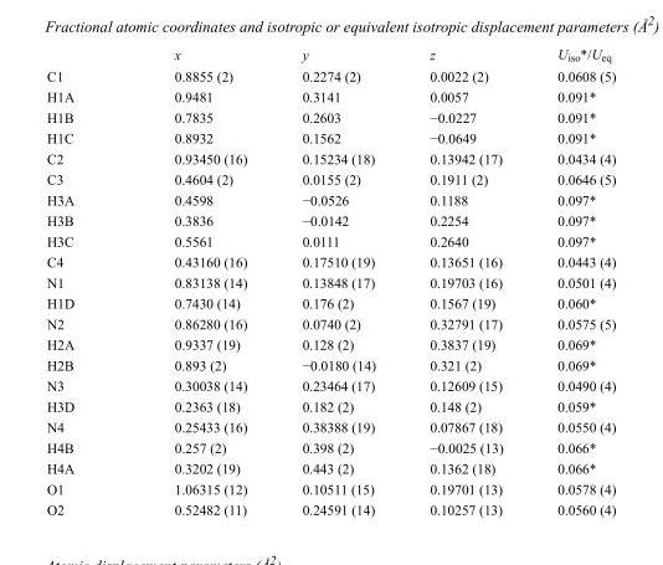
<table><thead><tr><td></td><td>x</td><td>y</td><td>z</td><td>U<sub>iso</sub>*/U<sub>eq</sub></td></tr></thead><tbody><tr><td>C1</td><td>0.8855 (2)</td><td>0.2274 (2)</td><td>0.0022 (2)</td><td>0.0608 (5)</td></tr><tr><td>H1A</td><td>0.9481</td><td>0.3141</td><td>0.0057</td><td>0.091*</td></tr><tr><td>H1B</td><td>0.7835</td><td>0.2603</td><td>−0.0227</td><td>0.091*</td></tr><tr><td>H1C</td><td>0.8932</td><td>0.1562</td><td>−0.0649</td><td>0.091*</td></tr><tr><td>C2</td><td>0.93450 (16)</td><td>0.15234 (18)</td><td>0.13942 (17)</td><td>0.0434 (4)</td></tr><tr><td>C3</td><td>0.4604 (2)</td><td>0.0155 (2)</td><td>0.1911 (2)</td><td>0.0646 (5)</td></tr><tr><td>H3A</td><td>0.4598</td><td>−0.0526</td><td>0.1188</td><td>0.097*</td></tr><tr><td>H3B</td><td>0.3836</td><td>−0.0142</td><td>0.2254</td><td>0.097*</td></tr><tr><td>H3C</td><td>0.5561</td><td>0.0111</td><td>0.2640</td><td>0.097*</td></tr><tr><td>C4</td><td>0.43160 (16)</td><td>0.17510 (19)</td><td>0.13651 (16)</td><td>0.0443 (4)</td></tr><tr><td>N1</td><td>0.83138 (14)</td><td>0.13848 (17)</td><td>0.19703 (16)</td><td>0.0501 (4)</td></tr><tr><td>H1D</td><td>0.7430 (14)</td><td>0.176 (2)</td><td>0.1567 (19)</td><td>0.060*</td></tr><tr><td>N2</td><td>0.86280 (16)</td><td>0.0740 (2)</td><td>0.32791 (17)</td><td>0.0575 (5)</td></tr><tr><td>H2A</td><td>0.9337 (19)</td><td>0.128 (2)</td><td>0.3837 (19)</td><td>0.069*</td></tr><tr><td>H2B</td><td>0.893 (2)</td><td>−0.0180 (14)</td><td>0.321 (2)</td><td>0.069*</td></tr><tr><td>N3</td><td>0.30038 (14)</td><td>0.23464 (17)</td><td>0.12609 (15)</td><td>0.0490 (4)</td></tr><tr><td>H3D</td><td>0.2363 (18)</td><td>0.182 (2)</td><td>0.148 (2)</td><td>0.059*</td></tr><tr><td>N4</td><td>0.25433 (16)</td><td>0.38388 (19)</td><td>0.07867 (18)</td><td>0.0550 (4)</td></tr><tr><td>H4B</td><td>0.257 (2)</td><td>0.398 (2)</td><td>−0.0025 (13)</td><td>0.066*</td></tr><tr><td>H4A</td><td>0.3202 (19)</td><td>0.443 (2)</td><td>0.1362 (18)</td><td>0.066*</td></tr><tr><td>O1</td><td>1.06315 (12)</td><td>0.10511 (15)</td><td>0.19701 (13)</td><td>0.0578 (4)</td></tr><tr><td>O2</td><td>0.52482 (11)</td><td>0.24591 (14)</td><td>0.10257 (13)</td><td>0.0560 (4)</td></tr></tbody></table>